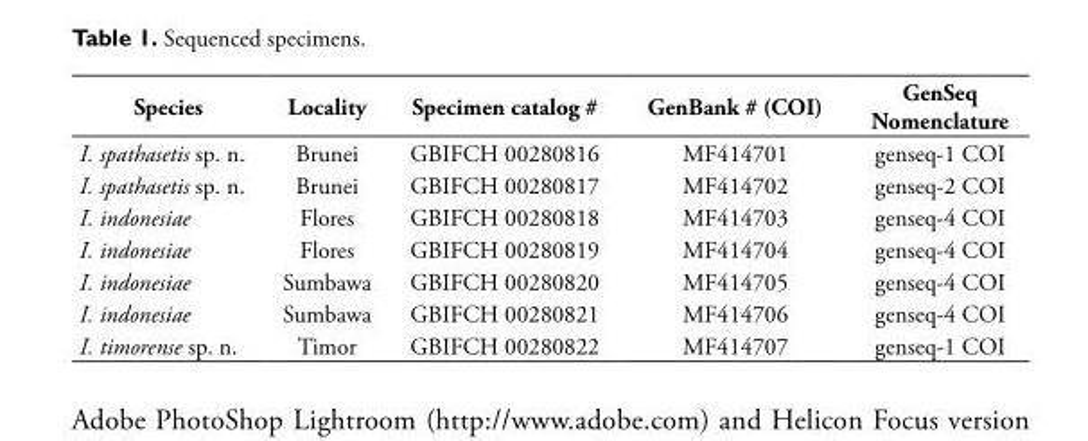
<table><thead><tr><td>Species</td><td>Locality</td><td>Specimen catalog #</td><td>GenBank # (COI)</td><td>GenSeq Nomenclature</td></tr></thead><tbody><tr><td>I. spathasetis sp. n.</td><td>Brunei</td><td>GBIFCH 00280816</td><td>MF414701</td><td>genseq-1 COI</td></tr><tr><td>I. spathasetis sp. n.</td><td>Brunei</td><td>GBIFCH 00280817</td><td>MF414702</td><td>genseq-2 COI</td></tr><tr><td>I. indonesiae</td><td>Flores</td><td>GBIFCH 00280818</td><td>MF414703</td><td>genseq-4 COI</td></tr><tr><td>I. indonesiae</td><td>Flores</td><td>GBIFCH 00280819</td><td>MF414704</td><td>genseq-4 COI</td></tr><tr><td>I. indonesiae</td><td>Sumbawa</td><td>GBIFCH 00280820</td><td>MF414705</td><td>genseq-4 COI</td></tr><tr><td>I. indonesiae</td><td>Sumbawa</td><td>GBIFCH 00280821</td><td>MF414706</td><td>genseq-4 COI</td></tr><tr><td>I. timorense sp. n.</td><td>Timor</td><td>GBIFCH 00280822</td><td>MF414707</td><td>genseq-1 COI</td></tr></tbody></table>